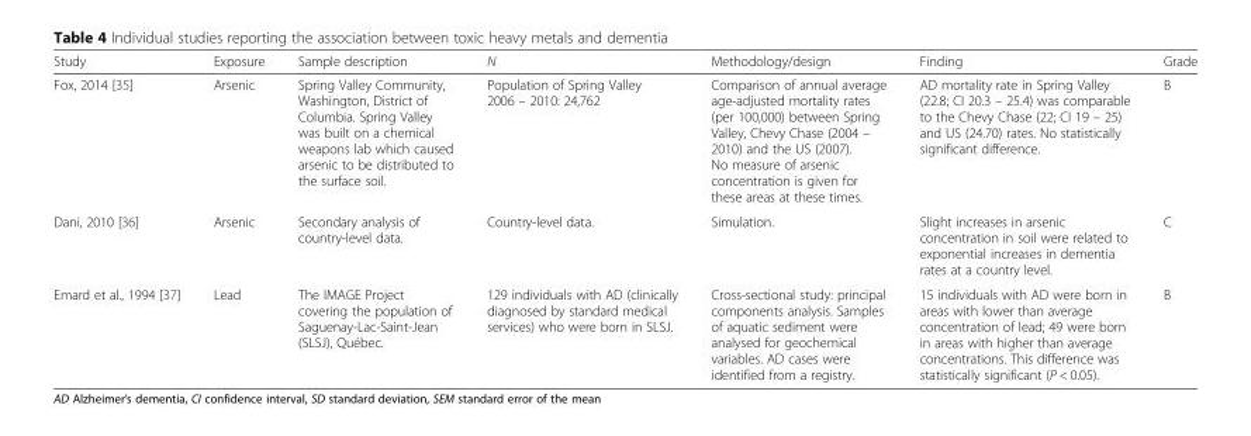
<table><thead><tr><td>Study</td><td>Exposure</td><td>Sample description</td><td>N</td><td>Methodology/design</td><td>Finding</td><td>Grade</td></tr></thead><tbody><tr><td>Fox, 2014 [35]</td><td>Arsenic</td><td>Spring Valley Community, Washington, District of Columbia. Spring Valley was built on a chemical weapons lab which caused arsenic to be distributed to the surface soil.</td><td>Population of Spring Valley 2006 – 2010: 24,762</td><td>Comparison of annual average age-adjusted mortality rates (per 100,000) between Spring Valley, Chevy Chase (2004 – 2010) and the US (2007). No measure of arsenic concentration is given for these areas at these times.</td><td>AD mortality rate in Spring Valley (22.8; CI 20.3 – 25.4) was comparable to the Chevy Chase (22; CI 19 – 25) and US (24.70) rates. No statistically significant difference.</td><td>B</td></tr><tr><td>Dani, 2010 [36]</td><td>Arsenic</td><td>Secondary analysis of country-level data.</td><td>Country-level data.</td><td>Simulation.</td><td>Slight increases in arsenic concentration in soil were related to exponential increases in dementia rates at a country level.</td><td>C</td></tr><tr><td>Emard et al., 1994 [37]</td><td>Lead</td><td>The IMAGE Project covering the population of Saguenay-Lac-Saint-Jean (SLSJ), Québec.</td><td>129 individuals with AD (clinically diagnosed by standard medical services) who were born in SLSJ.</td><td>Cross-sectional study: principal components analysis. Samples of aquatic sediment were analysed for geochemical variables. AD cases were identified from a registry.</td><td>15 individuals with AD were born in areas with lower than average concentration of lead; 49 were born in areas with higher than average concentrations. This difference was statistically significant (P &lt; 0.05).</td><td>B</td></tr></tbody></table>